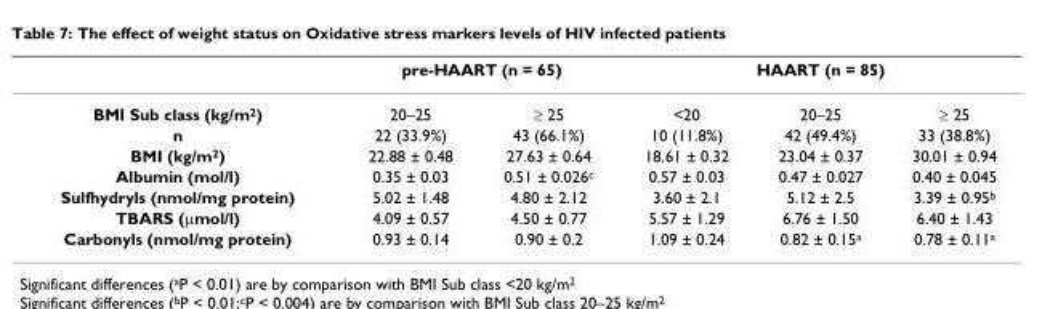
<table><thead><tr><td rowspan="2">BMI Sub class (kg/m<sup>2</sup>)</td><td colspan="2">pre-HAART (n = 65)</td><td colspan="3">HAART (n = 85)</td></tr><tr><td>20–25</td><td>≥ 25</td><td>&lt;20</td><td>20–25</td><td>≥ 25</td></tr></thead><tbody><tr><td>n</td><td>22 (33.9%)</td><td>43 (66.1%)</td><td>10 (11.8%)</td><td>42 (49.4%)</td><td>33 (38.8%)</td></tr><tr><td>BMI (kg/m<sup>2</sup>)</td><td>22.88 ± 0.48</td><td>27.63 ± 0.64</td><td>18.61 ± 0.32</td><td>23.04 ± 0.37</td><td>30.01 ± 0.94</td></tr><tr><td>Albumin (mol/l)</td><td>0.35 ± 0.03</td><td>0.51 ± 0.026<sup>c</sup></td><td>0.57 ± 0.03</td><td>0.47 ± 0.027</td><td>0.40 ± 0.045</td></tr><tr><td>Sulfhydryls (nmol/mg protein)</td><td>5.02 ± 1.48</td><td>4.80 ± 2.12</td><td>3.60 ± 2.1</td><td>5.12 ± 2.5</td><td>3.39 ± 0.95<sup>b</sup></td></tr><tr><td>TBARS (μmol/l)</td><td>4.09 ± 0.57</td><td>4.50 ± 0.77</td><td>5.57 ± 1.29</td><td>6.76 ± 1.50</td><td>6.40 ± 1.43</td></tr><tr><td>Carbonyls (nmol/mg protein)</td><td>0.93 ± 0.14</td><td>0.90 ± 0.2</td><td>1.09 ± 0.24</td><td>0.82 ± 0.15<sup>a</sup></td><td>0.78 ± 0.11<sup>a</sup></td></tr></tbody></table>